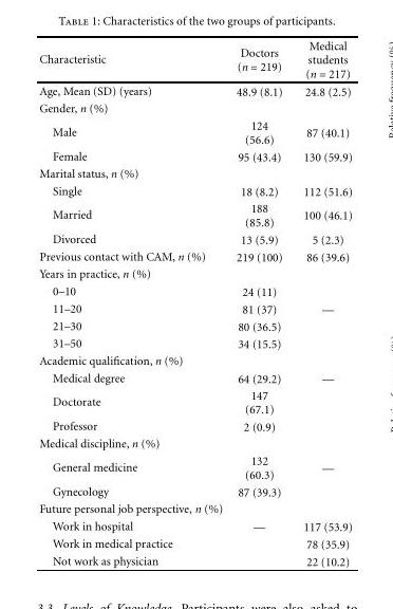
<table><thead><tr><td>Characteristic</td><td>Doctors (n = 219)</td><td>Medical students (n = 217)</td></tr></thead><tbody><tr><td>Age, Mean (SD) (years)</td><td>48.9 (8.1)</td><td>24.8 (2.5)</td></tr><tr><td colspan="3">Gender, n (%)</td></tr><tr><td>Male</td><td>124 (56.6)</td><td>87 (40.1)</td></tr><tr><td>Female</td><td>95 (43.4)</td><td>130 (59.9)</td></tr><tr><td colspan="3">Marital status, n (%)</td></tr><tr><td>Single</td><td>18 (8.2)</td><td>112 (51.6)</td></tr><tr><td>Married</td><td>188 (85.8)</td><td>100 (46.1)</td></tr><tr><td>Divorced</td><td>13 (5.9)</td><td>5 (2.3)</td></tr><tr><td>Previous contact with CAM, n (%)</td><td>219 (100)</td><td>86 (39.6)</td></tr><tr><td colspan="3">Years in practice, n (%)</td></tr><tr><td>0–10</td><td>24 (11)</td><td></td></tr><tr><td>11–20</td><td>81 (37)</td><td>—</td></tr><tr><td>21–30</td><td>80 (36.5)</td><td></td></tr><tr><td>31–50</td><td>34 (15.5)</td><td></td></tr><tr><td colspan="3">Academic qualification, n (%)</td></tr><tr><td>Medical degree</td><td>64 (29.2)</td><td>—</td></tr><tr><td>Doctorate</td><td>147 (67.1)</td><td></td></tr><tr><td>Professor</td><td>2 (0.9)</td><td></td></tr><tr><td colspan="3">Medical discipline, n (%)</td></tr><tr><td>General medicine</td><td>132 (60.3)</td><td>—</td></tr><tr><td>Gynecology</td><td>87 (39.3)</td><td></td></tr><tr><td colspan="3">Future personal job perspective, n (%)</td></tr><tr><td>Work in hospital</td><td>—</td><td>117 (53.9)</td></tr><tr><td>Work in medical practice</td><td></td><td>78 (35.9)</td></tr><tr><td>Not work as physician</td><td></td><td>22 (10.2)</td></tr></tbody></table>